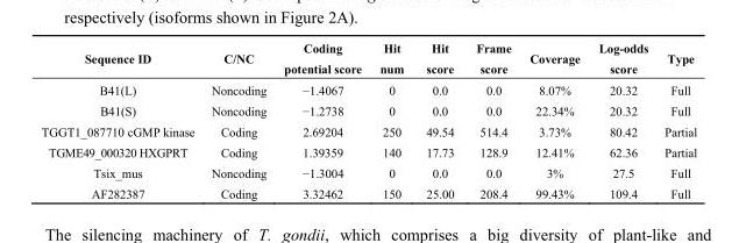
<table><thead><tr><td>Sequence ID</td><td>C/NC</td><td>Coding potential score</td><td>Hit num</td><td>Hit score</td><td>Frame score</td><td>Coverage</td><td>Log-odds score</td><td>Type</td></tr></thead><tbody><tr><td>B41(L)</td><td>Noncoding</td><td>−1.4067</td><td>0</td><td>0.0</td><td>0.0</td><td>8.07%</td><td>20.32</td><td>Full</td></tr><tr><td>B41(S)</td><td>Noncoding</td><td>−1.2738</td><td>0</td><td>0.0</td><td>0.0</td><td>22.34%</td><td>20.32</td><td>Full</td></tr><tr><td>TGGT1_087710 cGMP kinase</td><td>Coding</td><td>2.69204</td><td>250</td><td>49.54</td><td>514.4</td><td>3.73%</td><td>80.42</td><td>Partial</td></tr><tr><td>TGME49_000320 HXGPRT</td><td>Coding</td><td>1.39359</td><td>140</td><td>17.73</td><td>128.9</td><td>12.41%</td><td>62.36</td><td>Partial</td></tr><tr><td>Tsix_mus</td><td>Noncoding</td><td>−1.3004</td><td>0</td><td>0.0</td><td>0.0</td><td>3%</td><td>27.5</td><td>Full</td></tr><tr><td>AF282387</td><td>Coding</td><td>3.32462</td><td>150</td><td>25.00</td><td>208.4</td><td>99.43%</td><td>109.4</td><td>Full</td></tr></tbody></table>